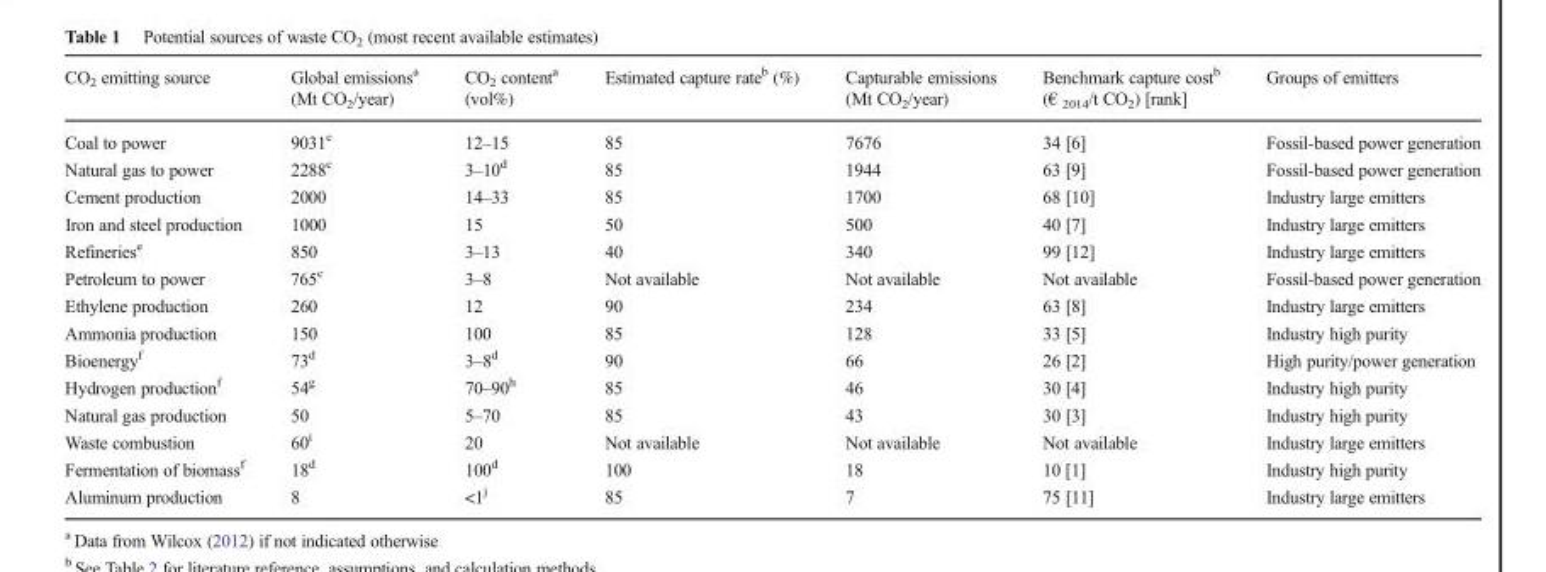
<table><thead><tr><td>CO<sub>2</sub> emitting source</td><td>Global emissions<sup>a</sup> (Mt CO<sub>2</sub>/year)</td><td>CO<sub>2</sub> content<sup>a</sup> (vol%)</td><td>Estimated capture rate<sup>b</sup> (%)</td><td>Capturable emissions (Mt CO<sub>2</sub>/year)</td><td>Benchmark capture cost<sup>b</sup> (€ <sub>2014</sub>/t CO<sub>2</sub>) [rank]</td><td>Groups of emitters</td></tr></thead><tbody><tr><td>Coal to power</td><td>9031<sup>c</sup></td><td>12–15</td><td>85</td><td>7676</td><td>34 [6]</td><td>Fossil-based power generation</td></tr><tr><td>Natural gas to power</td><td>2288<sup>c</sup></td><td>3–10<sup>d</sup></td><td>85</td><td>1944</td><td>63 [9]</td><td>Fossil-based power generation</td></tr><tr><td>Cement production</td><td>2000</td><td>14–33</td><td>85</td><td>1700</td><td>68 [10]</td><td>Industry large emitters</td></tr><tr><td>Iron and steel production</td><td>1000</td><td>15</td><td>50</td><td>500</td><td>40 [7]</td><td>Industry large emitters</td></tr><tr><td>Refineries<sup>e</sup></td><td>850</td><td>3–13</td><td>40</td><td>340</td><td>99 [12]</td><td>Industry large emitters</td></tr><tr><td>Petroleum to power</td><td>765<sup>c</sup></td><td>3–8</td><td>Not available</td><td>Not available</td><td>Not available</td><td>Fossil-based power generation</td></tr><tr><td>Ethylene production</td><td>260</td><td>12</td><td>90</td><td>234</td><td>63 [8]</td><td>Industry large emitters</td></tr><tr><td>Ammonia production</td><td>150</td><td>100</td><td>85</td><td>128</td><td>33 [5]</td><td>Industry high purity</td></tr><tr><td>Bioenergy<sup>f</sup></td><td>73<sup>d</sup></td><td>3–8<sup>d</sup></td><td>90</td><td>66</td><td>26 [2]</td><td>High purity/power generation</td></tr><tr><td>Hydrogen production<sup>f</sup></td><td>54<sup>g</sup></td><td>70–90<sup>h</sup></td><td>85</td><td>46</td><td>30 [4]</td><td>Industry high purity</td></tr><tr><td>Natural gas production</td><td>50</td><td>5–70</td><td>85</td><td>43</td><td>30 [3]</td><td>Industry high purity</td></tr><tr><td>Waste combustion</td><td>60<sup>i</sup></td><td>20</td><td>Not available</td><td>Not available</td><td>Not available</td><td>Industry large emitters</td></tr><tr><td>Fermentation of biomass<sup>f</sup></td><td>18<sup>d</sup></td><td>100<sup>d</sup></td><td>100</td><td>18</td><td>10 [1]</td><td>Industry high purity</td></tr><tr><td>Aluminum production</td><td>8</td><td>&lt;1<sup>j</sup></td><td>85</td><td>7</td><td>75 [11]</td><td>Industry large emitters</td></tr></tbody></table>